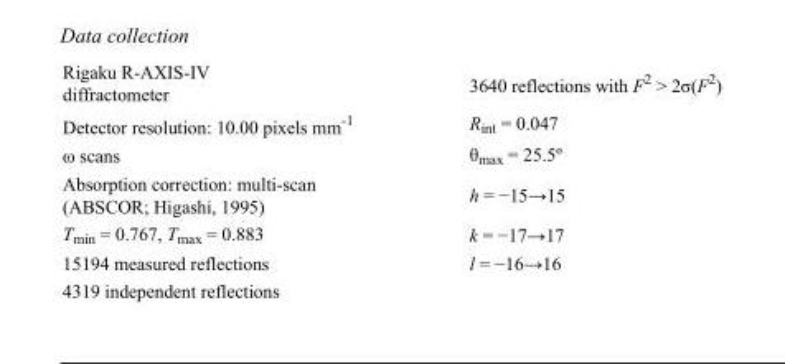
<table><tbody><tr><td>Rigaku R-AXIS-IV diffractometer</td><td>3640 reflections with F<sup>2</sup> &gt; 2σ(F<sup>2</sup>)</td></tr><tr><td>Detector resolution: 10.00 pixels mm<sup>-1</sup></td><td>R<sub>int</sub> = 0.047</td></tr><tr><td>ω scans</td><td>θ<sub>max</sub> = 25.5º</td></tr><tr><td>Absorption correction: multi-scan (ABSCOR; Higashi, 1995)</td><td>h = −15→15</td></tr><tr><td>T<sub>min</sub> = 0.767, T<sub>max</sub> = 0.883</td><td>k = −17→17</td></tr><tr><td>15194 measured reflections</td><td>l = −16→16</td></tr><tr><td>4319 independent reflections</td><td></td></tr></tbody></table>